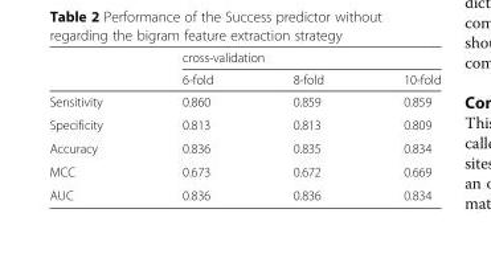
<table><thead><tr><td rowspan="2"></td><td colspan="3">cross-validation</td></tr><tr><td>6-fold</td><td>8-fold</td><td>10-fold</td></tr></thead><tbody><tr><td>Sensitivity</td><td>0.860</td><td>0.859</td><td>0.859</td></tr><tr><td>Specificity</td><td>0.813</td><td>0.813</td><td>0.809</td></tr><tr><td>Accuracy</td><td>0.836</td><td>0.835</td><td>0.834</td></tr><tr><td>MCC</td><td>0.673</td><td>0.672</td><td>0.669</td></tr><tr><td>AUC</td><td>0.836</td><td>0.836</td><td>0.834</td></tr></tbody></table>